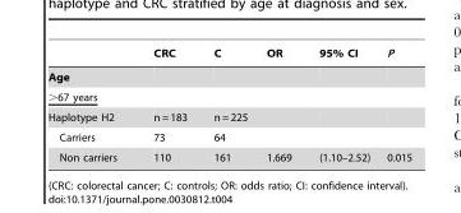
<table><thead><tr><td></td><td>CRC</td><td>C</td><td>OR</td><td>95% CI</td><td>P</td></tr></thead><tbody><tr><td colspan="6">Age</td></tr><tr><td colspan="6">&gt;67 years</td></tr><tr><td>Haplotype H2</td><td>n = 183</td><td>n = 225</td><td></td><td></td><td></td></tr><tr><td>Carriers</td><td>73</td><td>64</td><td></td><td></td><td></td></tr><tr><td>Non carriers</td><td>110</td><td>161</td><td>1.669</td><td>(1.10–2.52)</td><td>0.015</td></tr></tbody></table>